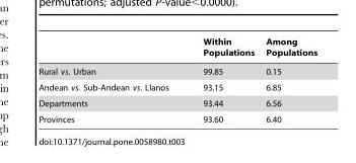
<table><thead><tr><td></td><td>Within Populations</td><td>Among Populations</td></tr></thead><tbody><tr><td>Rural vs. Urban</td><td>99.85</td><td>0.15</td></tr><tr><td>Andean vs. Sub-Andean vs. Llanos</td><td>93.15</td><td>6.85</td></tr><tr><td>Departments</td><td>93.44</td><td>6.56</td></tr><tr><td>Provinces</td><td>93.60</td><td>6.40</td></tr></tbody></table>